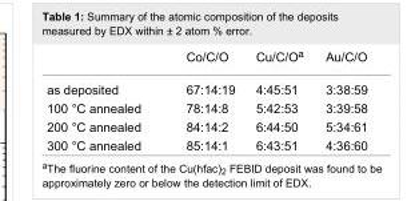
<table><thead><tr><td></td><td>Co/C/O</td><td>Cu/C/O<sup>a</sup></td><td>Au/C/O</td></tr></thead><tbody><tr><td>as deposited</td><td>67:14:19</td><td>4:45:51</td><td>3:38:59</td></tr><tr><td>100 °C annealed</td><td>78:14:8</td><td>5:42:53</td><td>3:39:58</td></tr><tr><td>200 °C annealed</td><td>84:14:2</td><td>6:44:50</td><td>5:34:61</td></tr><tr><td>300 °C annealed</td><td>85:14:1</td><td>6:43:51</td><td>4:36:60</td></tr></tbody></table>